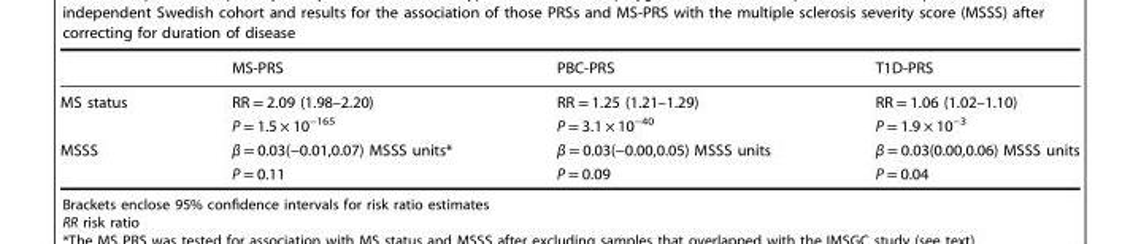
<table><thead><tr><td></td><td>MS-PRS</td><td>PBC-PRS</td><td>T1D-PRS</td></tr></thead><tbody><tr><td rowspan="2">MS status</td><td>RR = 2.09 (1.98–2.20)</td><td>RR = 1.25 (1.21–1.29)</td><td>RR = 1.06 (1.02–1.10)</td></tr><tr><td>P = 1.5 × 10<sup>−165</sup></td><td>P = 3.1 × 10<sup>−40</sup></td><td>P = 1.9 × 10<sup>−3</sup></td></tr><tr><td rowspan="2">MSSS</td><td>β = 0.03(−0.01,0.07) MSSS units*</td><td>β = 0.03(−0.00,0.05) MSSS units</td><td>β = 0.03(0.00,0.06) MSSS units</td></tr><tr><td>P = 0.11</td><td>P = 0.09</td><td>P = 0.04</td></tr></tbody></table>